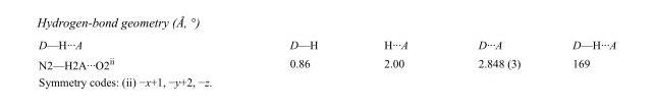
<table><tbody><tr><td>D—H···A</td><td>D—H</td><td>H···A</td><td>D···A</td><td>D—H···A</td></tr><tr><td>N2—H2A···O2<sup>ii</sup></td><td>0.86</td><td>2.00</td><td>2.848 (3)</td><td>169</td></tr></tbody></table>